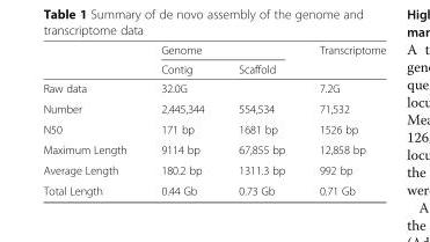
<table><thead><tr><td rowspan="2"></td><td colspan="2">Genome</td><td rowspan="2">Transcriptome</td></tr><tr><td>Contig</td><td>Scaffold</td></tr></thead><tbody><tr><td>Raw data</td><td colspan="2">32.0G</td><td>7.2G</td></tr><tr><td>Number</td><td>2,445,344</td><td>554,534</td><td>71,532</td></tr><tr><td>N50</td><td>171 bp</td><td>1681 bp</td><td>1526 bp</td></tr><tr><td>Maximum Length</td><td>9114 bp</td><td>67,855 bp</td><td>12,858 bp</td></tr><tr><td>Average Length</td><td>180.2 bp</td><td>1311.3 bp</td><td>992 bp</td></tr><tr><td>Total Length</td><td>0.44 Gb</td><td>0.73 Gb</td><td>0.71 Gb</td></tr></tbody></table>